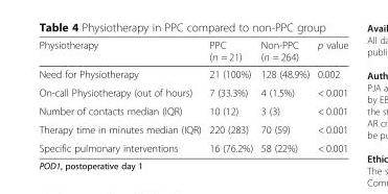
<table><thead><tr><td>Physiotherapy</td><td>PPC (n = 21)</td><td>Non-PPC (n = 264)</td><td>p value</td></tr></thead><tbody><tr><td>Need for Physiotherapy</td><td>21 (100%)</td><td>128 (48.9%)</td><td>0.002</td></tr><tr><td>On-call Physiotherapy (out of hours)</td><td>7 (33.3%)</td><td>4 (1.5%)</td><td>&lt; 0.001</td></tr><tr><td>Number of contacts median (IQR)</td><td>10 (12)</td><td>3 (3)</td><td>&lt; 0.001</td></tr><tr><td>Therapy time in minutes median (IQR)</td><td>220 (283)</td><td>70 (59)</td><td>&lt; 0.001</td></tr><tr><td>Specific pulmonary interventions</td><td>16 (76.2%)</td><td>58 (22%)</td><td>&lt; 0.001</td></tr></tbody></table>